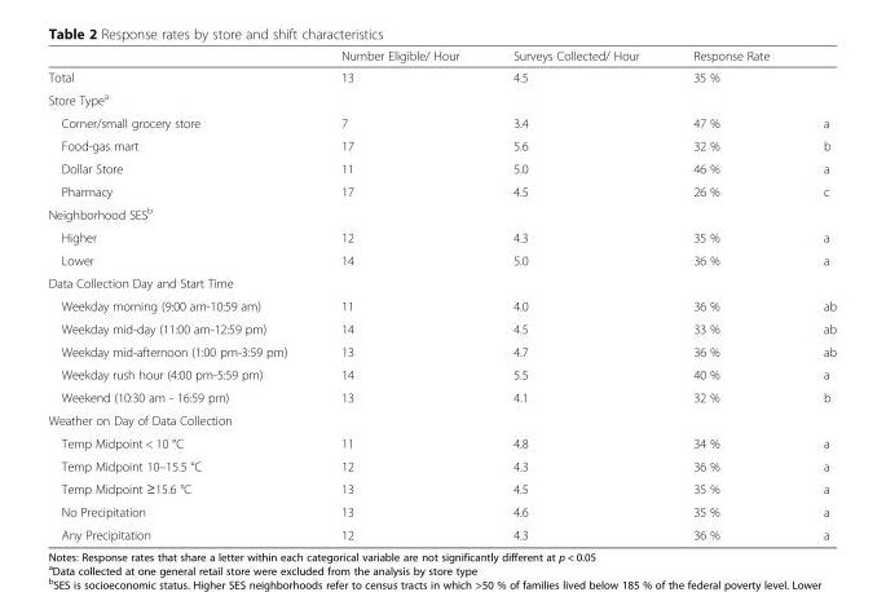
<table><thead><tr><td></td><td>Number Eligible/ Hour</td><td>Surveys Collected/ Hour</td><td>Response Rate</td><td></td></tr></thead><tbody><tr><td>Total</td><td>13</td><td>4.5</td><td>35 %</td><td></td></tr><tr><td colspan="5">Store Type<sup>a</sup></td></tr><tr><td>Corner/small grocery store</td><td>7</td><td>3.4</td><td>47 %</td><td>a</td></tr><tr><td>Food-gas mart</td><td>17</td><td>5.6</td><td>32 %</td><td>b</td></tr><tr><td>Dollar Store</td><td>11</td><td>5.0</td><td>46 %</td><td>a</td></tr><tr><td>Pharmacy</td><td>17</td><td>4.5</td><td>26 %</td><td>c</td></tr><tr><td colspan="5">Neighborhood SES<sup>b</sup></td></tr><tr><td>Higher</td><td>12</td><td>4.3</td><td>35 %</td><td>a</td></tr><tr><td>Lower</td><td>14</td><td>5.0</td><td>36 %</td><td>a</td></tr><tr><td colspan="5">Data Collection Day and Start Time</td></tr><tr><td>Weekday morning (9:00 am-10:59 am)</td><td>11</td><td>4.0</td><td>36 %</td><td>ab</td></tr><tr><td>Weekday mid-day (11:00 am-12:59 pm)</td><td>14</td><td>4.5</td><td>33 %</td><td>ab</td></tr><tr><td>Weekday mid-afternoon (1:00 pm-3:59 pm)</td><td>13</td><td>4.7</td><td>36 %</td><td>ab</td></tr><tr><td>Weekday rush hour (4:00 pm-5:59 pm)</td><td>14</td><td>5.5</td><td>40 %</td><td>a</td></tr><tr><td>Weekend (10:30 am - 16:59 pm)</td><td>13</td><td>4.1</td><td>32 %</td><td>b</td></tr><tr><td colspan="5">Weather on Day of Data Collection</td></tr><tr><td>Temp Midpoint &lt; 10 °C</td><td>11</td><td>4.8</td><td>34 %</td><td>a</td></tr><tr><td>Temp Midpoint 10–15.5 °C</td><td>12</td><td>4.3</td><td>36 %</td><td>a</td></tr><tr><td>Temp Midpoint ≥15.6 °C</td><td>13</td><td>4.5</td><td>35 %</td><td>a</td></tr><tr><td>No Precipitation</td><td>13</td><td>4.6</td><td>35 %</td><td>a</td></tr><tr><td>Any Precipitation</td><td>12</td><td>4.3</td><td>36 %</td><td>a</td></tr></tbody></table>